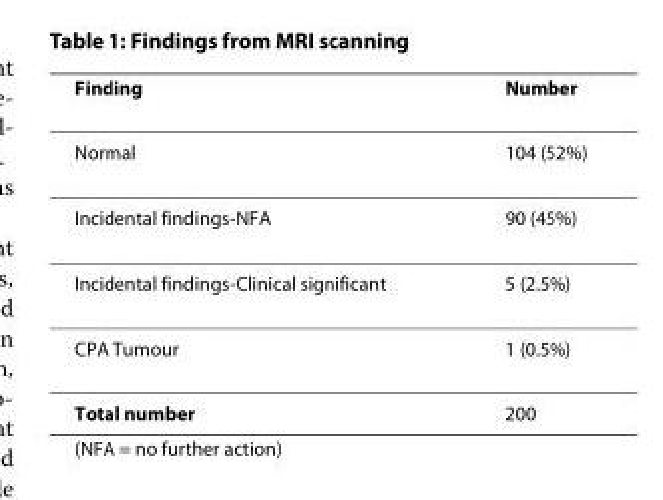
<table><thead><tr><td>Finding</td><td>Number</td></tr></thead><tbody><tr><td>Normal</td><td>104 (52%)</td></tr><tr><td>Incidental findings-NFA</td><td>90 (45%)</td></tr><tr><td>Incidental findings-Clinical significant</td><td>5 (2.5%)</td></tr><tr><td>CPA Tumour</td><td>1 (0.5%)</td></tr><tr><td>Total number</td><td>200</td></tr></tbody></table>